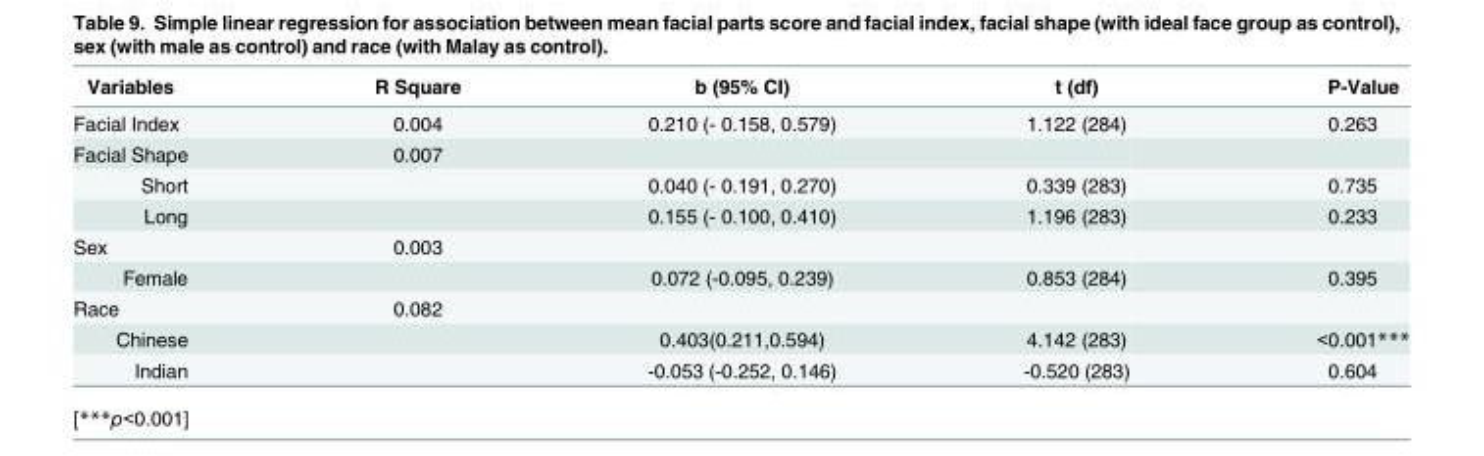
<table><thead><tr><td>Variables</td><td>R Square</td><td>b (95% CI)</td><td>t (df)</td><td>P-Value</td></tr></thead><tbody><tr><td>Facial Index</td><td>0.004</td><td>0.210 (- 0.158, 0.579)</td><td>1.122 (284)</td><td>0.263</td></tr><tr><td>Facial Shape</td><td>0.007</td><td></td><td></td><td></td></tr><tr><td>Short</td><td></td><td>0.040 (- 0.191, 0.270)</td><td>0.339 (283)</td><td>0.735</td></tr><tr><td>Long</td><td></td><td>0.155 (- 0.100, 0.410)</td><td>1.196 (283)</td><td>0.233</td></tr><tr><td>Sex</td><td>0.003</td><td></td><td></td><td></td></tr><tr><td>Female</td><td></td><td>0.072 (-0.095, 0.239)</td><td>0.853 (284)</td><td>0.395</td></tr><tr><td>Race</td><td>0.082</td><td></td><td></td><td></td></tr><tr><td>Chinese</td><td></td><td>0.403(0.211,0.594)</td><td>4.142 (283)</td><td>&lt;0.001***</td></tr><tr><td>Indian</td><td></td><td>-0.053 (-0.252, 0.146)</td><td>-0.520 (283)</td><td>0.604</td></tr></tbody></table>